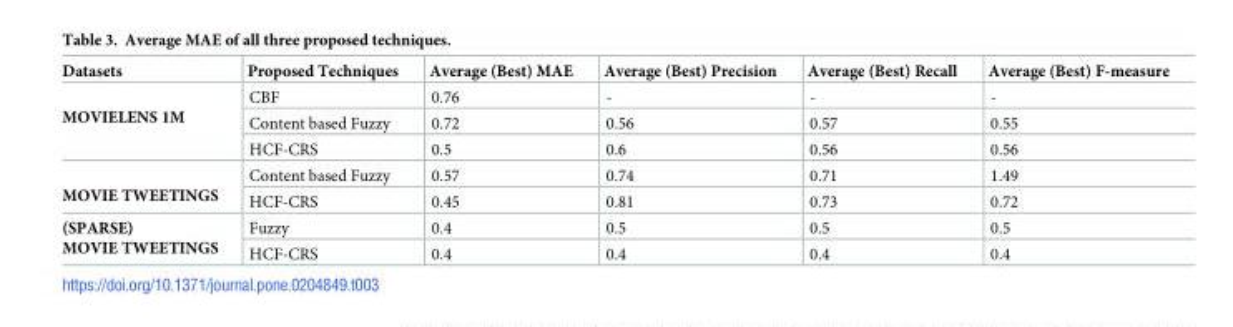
<table><thead><tr><td>Datasets</td><td>Proposed Techniques</td><td>Average (Best) MAE</td><td>Average (Best) Precision</td><td>Average (Best) Recall</td><td>Average (Best) F-measure</td></tr></thead><tbody><tr><td rowspan="3">MOVIELENS 1M</td><td>CBF</td><td>0.76</td><td>-</td><td>-</td><td>-</td></tr><tr><td>Content based Fuzzy</td><td>0.72</td><td>0.56</td><td>0.57</td><td>0.55</td></tr><tr><td>HCF-CRS</td><td>0.5</td><td>0.6</td><td>0.56</td><td>0.56</td></tr><tr><td rowspan="2">MOVIE TWEETINGS</td><td>Content based Fuzzy</td><td>0.57</td><td>0.74</td><td>0.71</td><td>1.49</td></tr><tr><td>HCF-CRS</td><td>0.45</td><td>0.81</td><td>0.73</td><td>0.72</td></tr><tr><td rowspan="2">(SPARSE) MOVIE TWEETINGS</td><td>Fuzzy</td><td>0.4</td><td>0.5</td><td>0.5</td><td>0.5</td></tr><tr><td>HCF-CRS</td><td>0.4</td><td>0.4</td><td>0.4</td><td>0.4</td></tr></tbody></table>